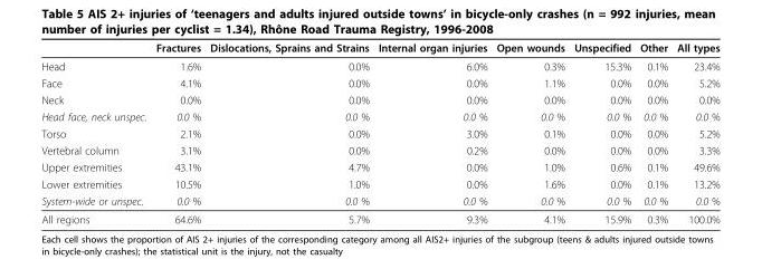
<table><thead><tr><td></td><td>Fractures</td><td>Dislocations, Sprains and Strains</td><td>Internal organ injuries</td><td>Open wounds</td><td>Unspecified</td><td>Other</td><td>All types</td></tr></thead><tbody><tr><td>Head</td><td>1.6%</td><td>0.0%</td><td>6.0%</td><td>0.3%</td><td>15.3%</td><td>0.1%</td><td>23.4%</td></tr><tr><td>Face</td><td>4.1%</td><td>0.0%</td><td>0.0%</td><td>1.1%</td><td>0.0%</td><td>0.0%</td><td>5.2%</td></tr><tr><td>Neck</td><td>0.0%</td><td>0.0%</td><td>0.0%</td><td>0.0%</td><td>0.0%</td><td>0.0%</td><td>0.0%</td></tr><tr><td>Head face, neck unspec.</td><td>0.0 %</td><td>0.0 %</td><td>0.0 %</td><td>0.0 %</td><td>0.0 %</td><td>0.0 %</td><td>0.0 %</td></tr><tr><td>Torso</td><td>2.1%</td><td>0.0%</td><td>3.0%</td><td>0.1%</td><td>0.0%</td><td>0.0%</td><td>5.2%</td></tr><tr><td>Vertebral column</td><td>3.1%</td><td>0.0%</td><td>0.2%</td><td>0.0%</td><td>0.0%</td><td>0.0%</td><td>3.3%</td></tr><tr><td>Upper extremities</td><td>43.1%</td><td>4.7%</td><td>0.0%</td><td>1.0%</td><td>0.6%</td><td>0.1%</td><td>49.6%</td></tr><tr><td>Lower extremities</td><td>10.5%</td><td>1.0%</td><td>0.0%</td><td>1.6%</td><td>0.0%</td><td>0.1%</td><td>13.2%</td></tr><tr><td>System-wide or unspec.</td><td>0.0 %</td><td>0.0 %</td><td>0.0 %</td><td>0.0 %</td><td>0.0 %</td><td>0.0 %</td><td>0.0 %</td></tr><tr><td>All regions</td><td>64.6%</td><td>5.7%</td><td>9.3%</td><td>4.1%</td><td>15.9%</td><td>0.3%</td><td>100.0%</td></tr></tbody></table>